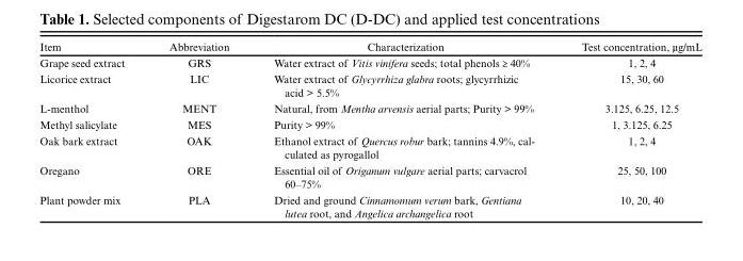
<table><thead><tr><td>Item</td><td>Abbreviation</td><td>Characterization</td><td>Test concentration, µg/mL</td></tr></thead><tbody><tr><td>Grape seed extract</td><td>GRS</td><td>Water extract of Vitis vinifera seeds; total phenols ≥ 40%</td><td>1, 2, 4</td></tr><tr><td>Licorice extract</td><td>LIC</td><td>Water extract of Glycyrrhiza glabra roots; glycyrrhizic acid &gt; 5.5%</td><td>15, 30, 60</td></tr><tr><td>L-menthol</td><td>MENT</td><td>Natural, from Mentha arvensis aerial parts; Purity &gt; 99%</td><td>3.125, 6.25, 12.5</td></tr><tr><td>Methyl salicylate</td><td>MES</td><td>Purity &gt; 99%</td><td>1, 3.125, 6.25</td></tr><tr><td>Oak bark extract</td><td>OAK</td><td>Ethanol extract of Quercus robur bark; tannins 4.9%, cal- culated as pyrogallol</td><td>1, 2, 4</td></tr><tr><td>Oregano</td><td>ORE</td><td>Essential oil of Origanum vulgare aerial parts; carvacrol 60–75%</td><td>25, 50, 100</td></tr><tr><td>Plant powder mix</td><td>PLA</td><td>Dried and ground Cinnamomum verum bark, Gentiana lutea root, and Angelica archangelica root</td><td>10, 20, 40</td></tr></tbody></table>